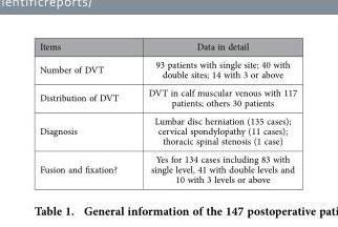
<table><thead><tr><td>Items</td><td>Data in detail</td></tr></thead><tbody><tr><td>Number of DVT</td><td>93 patients with single site; 40 with double sites; 14 with 3 or above</td></tr><tr><td>Distribution of DVT</td><td>DVT in calf muscular venous with 117 patients; others 30 patients</td></tr><tr><td>Diagnosis</td><td>Lumbar disc herniation (135 cases); cervical spondylopathy (11 cases); thoracic spinal stenosis (1 case)</td></tr><tr><td>Fusion and fixation?</td><td>Yes for 134 cases including 83 with single level, 41 with double levels and 10 with 3 levels or above</td></tr></tbody></table>